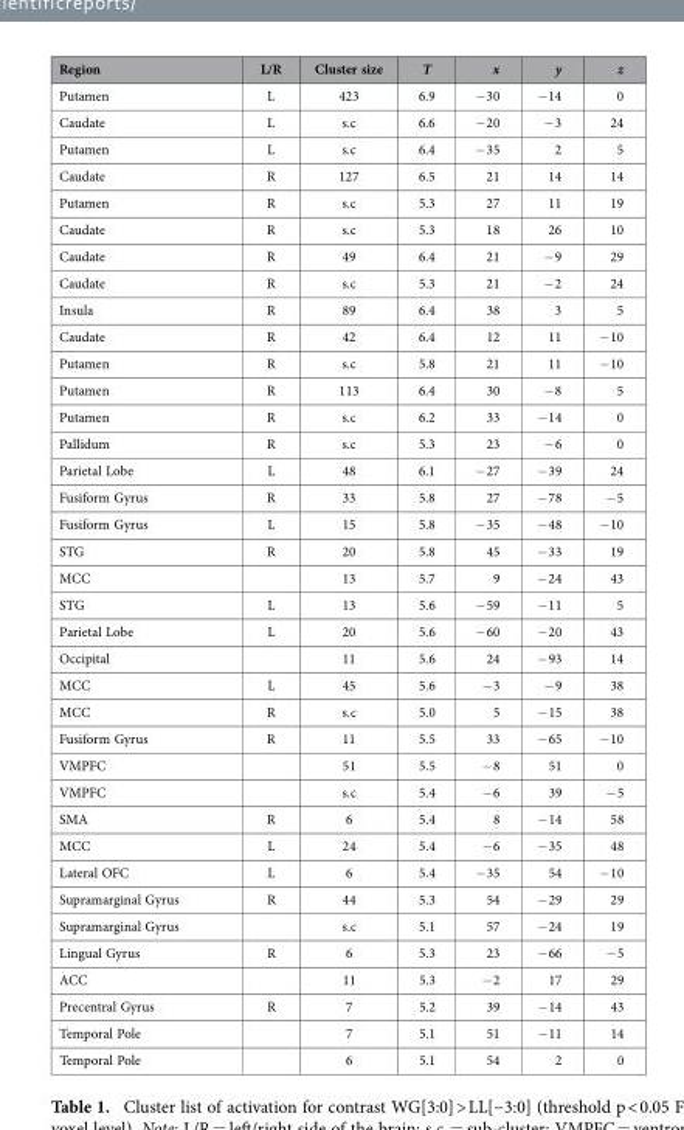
<table><thead><tr><td>Region</td><td>L/R</td><td>Cluster size</td><td>T</td><td>x</td><td>y</td><td>z</td></tr></thead><tbody><tr><td>Putamen</td><td>L</td><td>423</td><td>6.9</td><td>− 30</td><td>− 14</td><td>0</td></tr><tr><td>Caudate</td><td>L</td><td>s.c</td><td>6.6</td><td>− 20</td><td>− 3</td><td>24</td></tr><tr><td>Putamen</td><td>L</td><td>s.c</td><td>6.4</td><td>− 35</td><td>2</td><td>5</td></tr><tr><td>Caudate</td><td>R</td><td>127</td><td>6.5</td><td>21</td><td>14</td><td>14</td></tr><tr><td>Putamen</td><td>R</td><td>s.c</td><td>5.3</td><td>27</td><td>11</td><td>19</td></tr><tr><td>Caudate</td><td>R</td><td>s.c</td><td>5.3</td><td>18</td><td>26</td><td>10</td></tr><tr><td>Caudate</td><td>R</td><td>49</td><td>6.4</td><td>21</td><td>− 9</td><td>29</td></tr><tr><td>Caudate</td><td>R</td><td>s.c</td><td>5.3</td><td>21</td><td>− 2</td><td>24</td></tr><tr><td>Insula</td><td>R</td><td>89</td><td>6.4</td><td>38</td><td>3</td><td>5</td></tr><tr><td>Caudate</td><td>R</td><td>42</td><td>6.4</td><td>12</td><td>11</td><td>− 10</td></tr><tr><td>Putamen</td><td>R</td><td>s.c</td><td>5.8</td><td>21</td><td>11</td><td>− 10</td></tr><tr><td>Putamen</td><td>R</td><td>113</td><td>6.4</td><td>30</td><td>− 8</td><td>5</td></tr><tr><td>Putamen</td><td>R</td><td>s.c</td><td>6.2</td><td>33</td><td>− 14</td><td>0</td></tr><tr><td>Pallidum</td><td>R</td><td>s.c</td><td>5.3</td><td>23</td><td>− 6</td><td>0</td></tr><tr><td>Parietal Lobe</td><td>L</td><td>48</td><td>6.1</td><td>− 27</td><td>− 39</td><td>24</td></tr><tr><td>Fusiform Gyrus</td><td>R</td><td>33</td><td>5.8</td><td>27</td><td>− 78</td><td>− 5</td></tr><tr><td>Fusiform Gyrus</td><td>L</td><td>15</td><td>5.8</td><td>− 35</td><td>− 48</td><td>− 10</td></tr><tr><td>STG</td><td>R</td><td>20</td><td>5.8</td><td>45</td><td>− 33</td><td>19</td></tr><tr><td>MCC</td><td></td><td>13</td><td>5.7</td><td>9</td><td>− 24</td><td>43</td></tr><tr><td>STG</td><td>L</td><td>13</td><td>5.6</td><td>− 59</td><td>− 11</td><td>5</td></tr><tr><td>Parietal Lobe</td><td>L</td><td>20</td><td>5.6</td><td>− 60</td><td>− 20</td><td>43</td></tr><tr><td>Occipital</td><td></td><td>11</td><td>5.6</td><td>24</td><td>− 93</td><td>14</td></tr><tr><td>MCC</td><td>L</td><td>45</td><td>5.6</td><td>− 3</td><td>− 9</td><td>38</td></tr><tr><td>MCC</td><td>R</td><td>s.c</td><td>5.0</td><td>5</td><td>− 15</td><td>38</td></tr><tr><td>Fusiform Gyrus</td><td>R</td><td>11</td><td>5.5</td><td>33</td><td>− 65</td><td>− 10</td></tr><tr><td>VMPFC</td><td></td><td>51</td><td>5.5</td><td>− 8</td><td>51</td><td>0</td></tr><tr><td>VMPFC</td><td></td><td>s.c</td><td>5.4</td><td>− 6</td><td>39</td><td>− 5</td></tr><tr><td>SMA</td><td>R</td><td>6</td><td>5.4</td><td>8</td><td>− 14</td><td>58</td></tr><tr><td>MCC</td><td>L</td><td>24</td><td>5.4</td><td>− 6</td><td>− 35</td><td>48</td></tr><tr><td>Lateral OFC</td><td>L</td><td>6</td><td>5.4</td><td>− 35</td><td>54</td><td>− 10</td></tr><tr><td>Supramarginal Gyrus</td><td>R</td><td>44</td><td>5.3</td><td>54</td><td>− 29</td><td>29</td></tr><tr><td>Supramarginal Gyrus</td><td></td><td>s.c</td><td>5.1</td><td>57</td><td>− 24</td><td>19</td></tr><tr><td>Lingual Gyrus</td><td>R</td><td>6</td><td>5.3</td><td>23</td><td>− 66</td><td>− 5</td></tr><tr><td>ACC</td><td></td><td>11</td><td>5.3</td><td>− 2</td><td>17</td><td>29</td></tr><tr><td>Precentral Gyrus</td><td>R</td><td>7</td><td>5.2</td><td>39</td><td>− 14</td><td>43</td></tr><tr><td>Temporal Pole</td><td></td><td>7</td><td>5.1</td><td>51</td><td>− 11</td><td>14</td></tr><tr><td>Temporal Pole</td><td></td><td>6</td><td>5.1</td><td>54</td><td>2</td><td>0</td></tr></tbody></table>